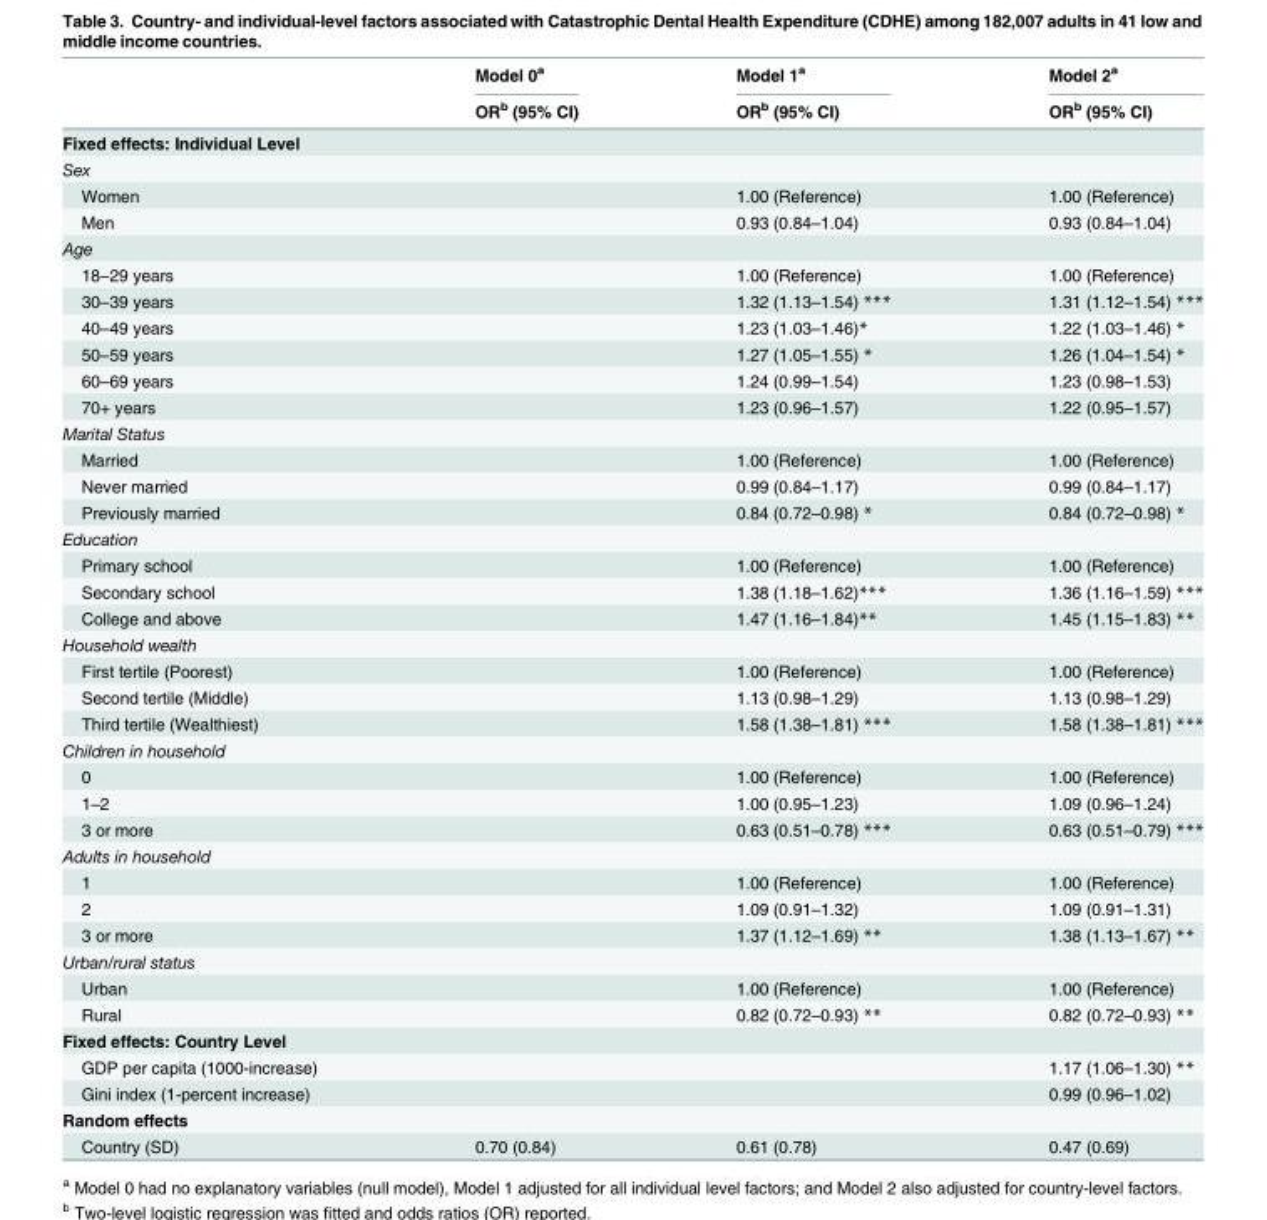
<table><thead><tr><td rowspan="2"></td><td rowspan="2">Model 0<sup>a</sup> OR<sup>b</sup> (95% CI)</td><td rowspan="2">Model 1<sup>a</sup> OR<sup>b</sup> (95% CI)</td><td rowspan="2">Model 2<sup>a</sup> OR<sup>b</sup> (95% CI)</td></tr><tr></tr></thead><tbody><tr><td colspan="4">Fixed effects: Individual Level</td></tr><tr><td colspan="4">Sex</td></tr><tr><td>Women</td><td></td><td>1.00 (Reference)</td><td>1.00 (Reference)</td></tr><tr><td>Men</td><td></td><td>0.93 (0.84–1.04)</td><td>0.93 (0.84–1.04)</td></tr><tr><td colspan="4">Age</td></tr><tr><td>18–29 years</td><td></td><td>1.00 (Reference)</td><td>1.00 (Reference)</td></tr><tr><td>30–39 years</td><td></td><td>1.32 (1.13–1.54) ***</td><td>1.31 (1.12–1.54) ***</td></tr><tr><td>40–49 years</td><td></td><td>1.23 (1.03–1.46)*</td><td>1.22 (1.03–1.46) *</td></tr><tr><td>50–59 years</td><td></td><td>1.27 (1.05–1.55) *</td><td>1.26 (1.04–1.54) *</td></tr><tr><td>60–69 years</td><td></td><td>1.24 (0.99–1.54)</td><td>1.23 (0.98–1.53)</td></tr><tr><td>70+ years</td><td></td><td>1.23 (0.96–1.57)</td><td>1.22 (0.95–1.57)</td></tr><tr><td colspan="4">Marital Status</td></tr><tr><td>Married</td><td></td><td>1.00 (Reference)</td><td>1.00 (Reference)</td></tr><tr><td>Never married</td><td></td><td>0.99 (0.84–1.17)</td><td>0.99 (0.84–1.17)</td></tr><tr><td>Previously married</td><td></td><td>0.84 (0.72–0.98) *</td><td>0.84 (0.72–0.98) *</td></tr><tr><td colspan="4">Education</td></tr><tr><td>Primary school</td><td></td><td>1.00 (Reference)</td><td>1.00 (Reference)</td></tr><tr><td>Secondary school</td><td></td><td>1.38 (1.18–1.62)***</td><td>1.36 (1.16–1.59) ***</td></tr><tr><td>College and above</td><td></td><td>1.47 (1.16–1.84)**</td><td>1.45 (1.15–1.83) **</td></tr><tr><td colspan="4">Household wealth</td></tr><tr><td>First tertile (Poorest)</td><td></td><td>1.00 (Reference)</td><td>1.00 (Reference)</td></tr><tr><td>Second tertile (Middle)</td><td></td><td>1.13 (0.98–1.29)</td><td>1.13 (0.98–1.29)</td></tr><tr><td>Third tertile (Wealthiest)</td><td></td><td>1.58 (1.38–1.81) ***</td><td>1.58 (1.38–1.81) ***</td></tr><tr><td colspan="4">Children in household</td></tr><tr><td>0</td><td></td><td>1.00 (Reference)</td><td>1.00 (Reference)</td></tr><tr><td>1–2</td><td></td><td>1.00 (0.95–1.23)</td><td>1.09 (0.96–1.24)</td></tr><tr><td>3 or more</td><td></td><td>0.63 (0.51–0.78) ***</td><td>0.63 (0.51–0.79) ***</td></tr><tr><td colspan="4">Adults in household</td></tr><tr><td>1</td><td></td><td>1.00 (Reference)</td><td>1.00 (Reference)</td></tr><tr><td>2</td><td></td><td>1.09 (0.91–1.32)</td><td>1.09 (0.91–1.31)</td></tr><tr><td>3 or more</td><td></td><td>1.37 (1.12–1.69) **</td><td>1.38 (1.13–1.67) **</td></tr><tr><td colspan="4">Urban/rural status</td></tr><tr><td>Urban</td><td></td><td>1.00 (Reference)</td><td>1.00 (Reference)</td></tr><tr><td>Rural</td><td></td><td>0.82 (0.72–0.93) **</td><td>0.82 (0.72–0.93) **</td></tr><tr><td colspan="4">Fixed effects: Country Level</td></tr><tr><td>GDP per capita (1000-increase)</td><td></td><td></td><td>1.17 (1.06–1.30) **</td></tr><tr><td>Gini index (1-percent increase)</td><td></td><td></td><td>0.99 (0.96–1.02)</td></tr><tr><td colspan="4">Random effects</td></tr><tr><td>Country (SD)</td><td>0.70 (0.84)</td><td>0.61 (0.78)</td><td>0.47 (0.69)</td></tr></tbody></table>